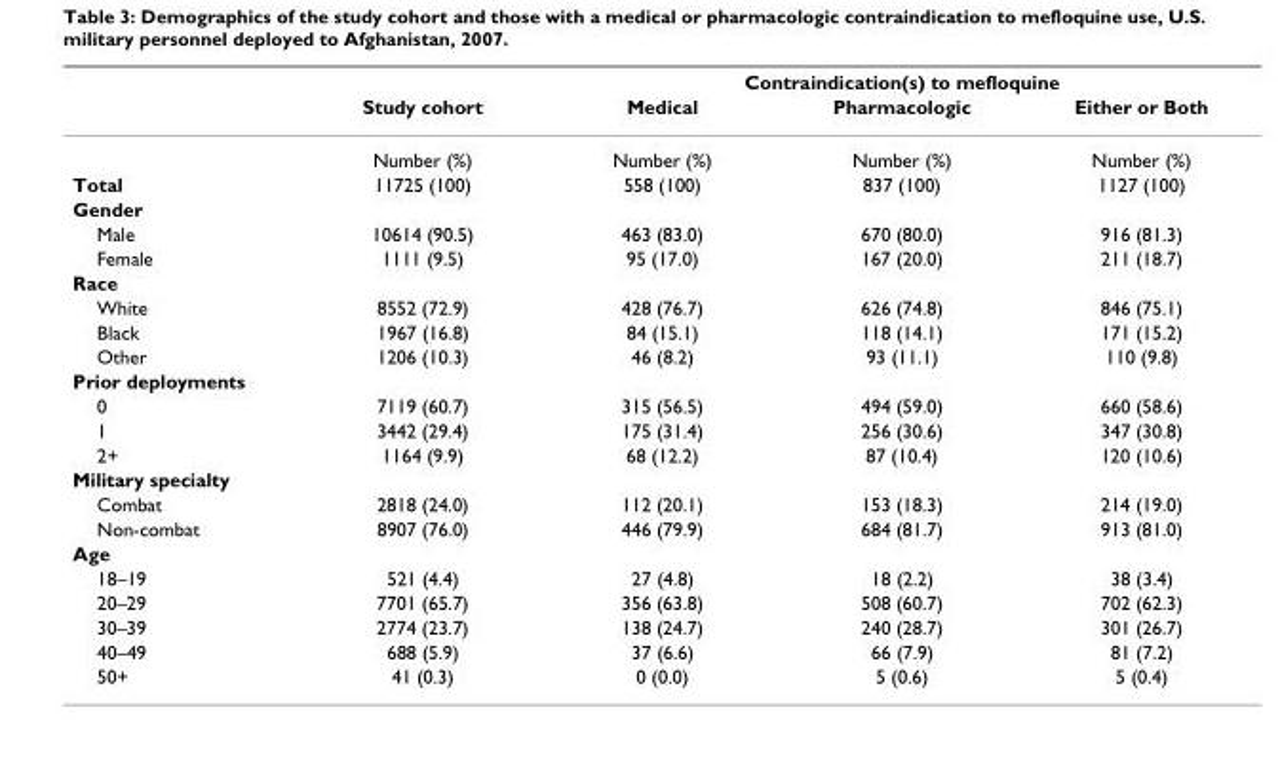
<table><thead><tr><td rowspan="2"></td><td rowspan="2">Study cohort</td><td colspan="3">Contraindication(s) to mefloquine</td></tr><tr><td>Medical</td><td>Pharmacologic</td><td>Either or Both</td></tr></thead><tbody><tr><td></td><td>Number (%)</td><td>Number (%)</td><td>Number (%)</td><td>Number (%)</td></tr><tr><td>Total</td><td>11725 (100)</td><td>558 (100)</td><td>837 (100)</td><td>1127 (100)</td></tr><tr><td colspan="5">Gender</td></tr><tr><td>Male</td><td>10614 (90.5)</td><td>463 (83.0)</td><td>670 (80.0)</td><td>916 (81.3)</td></tr><tr><td>Female</td><td>1111 (9.5)</td><td>95 (17.0)</td><td>167 (20.0)</td><td>211 (18.7)</td></tr><tr><td colspan="5">Race</td></tr><tr><td>White</td><td>8552 (72.9)</td><td>428 (76.7)</td><td>626 (74.8)</td><td>846 (75.1)</td></tr><tr><td>Black</td><td>1967 (16.8)</td><td>84 (15.1)</td><td>118 (14.1)</td><td>171 (15.2)</td></tr><tr><td>Other</td><td>1206 (10.3)</td><td>46 (8.2)</td><td>93 (11.1)</td><td>110 (9.8)</td></tr><tr><td colspan="5">Prior deployments</td></tr><tr><td>0</td><td>7119 (60.7)</td><td>315 (56.5)</td><td>494 (59.0)</td><td>660 (58.6)</td></tr><tr><td>1</td><td>3442 (29.4)</td><td>175 (31.4)</td><td>256 (30.6)</td><td>347 (30.8)</td></tr><tr><td>2+</td><td>1164 (9.9)</td><td>68 (12.2)</td><td>87 (10.4)</td><td>120 (10.6)</td></tr><tr><td colspan="5">Military specialty</td></tr><tr><td>Combat</td><td>2818 (24.0)</td><td>112 (20.1)</td><td>153 (18.3)</td><td>214 (19.0)</td></tr><tr><td>Non-combat</td><td>8907 (76.0)</td><td>446 (79.9)</td><td>684 (81.7)</td><td>913 (81.0)</td></tr><tr><td colspan="5">Age</td></tr><tr><td>18–19</td><td>521 (4.4)</td><td>27 (4.8)</td><td>18 (2.2)</td><td>38 (3.4)</td></tr><tr><td>20–29</td><td>7701 (65.7)</td><td>356 (63.8)</td><td>508 (60.7)</td><td>702 (62.3)</td></tr><tr><td>30–39</td><td>2774 (23.7)</td><td>138 (24.7)</td><td>240 (28.7)</td><td>301 (26.7)</td></tr><tr><td>40–49</td><td>688 (5.9)</td><td>37 (6.6)</td><td>66 (7.9)</td><td>81 (7.2)</td></tr><tr><td>50+</td><td>41 (0.3)</td><td>0 (0.0)</td><td>5 (0.6)</td><td>5 (0.4)</td></tr></tbody></table>